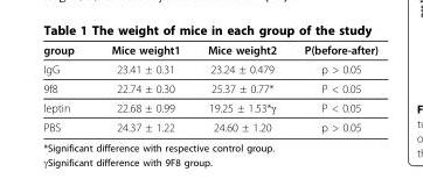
<table><thead><tr><td>group</td><td>Mice weight1</td><td>Mice weight2</td><td>P(before-after)</td></tr></thead><tbody><tr><td>IgG</td><td>23.41 ± 0.31</td><td>23.24 ± 0.479</td><td>p &gt; 0.05</td></tr><tr><td>9f8</td><td>22.74 ± 0.30</td><td>25.37 ± 0.77*</td><td>P &lt; 0.05</td></tr><tr><td>leptin</td><td>22.68 ± 0.99</td><td>19.25 ± 1.53*γ</td><td>P &lt; 0.05</td></tr><tr><td>PBS</td><td>24.37 ± 1.22</td><td>24.60 ± 1.20</td><td>p &gt; 0.05</td></tr></tbody></table>